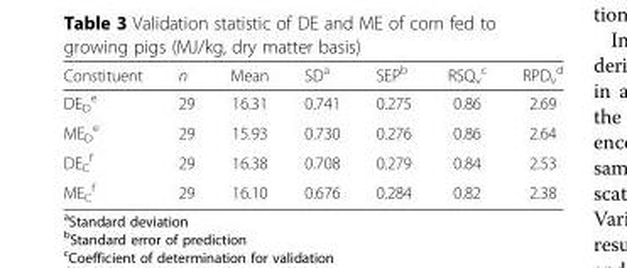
<table><thead><tr><td>Constituent</td><td>n</td><td>Mean</td><td>SD<sup>a</sup></td><td>SEP<sup>b</sup></td><td>RSQ<sub>v</sub> <sup>c</sup></td><td>RPD<sub>v</sub> <sup>d</sup></td></tr></thead><tbody><tr><td>DE<sub>D</sub> <sup>e</sup></td><td>29</td><td>16.31</td><td>0.741</td><td>0.275</td><td>0.86</td><td>2.69</td></tr><tr><td>ME<sub>D</sub> <sup>e</sup></td><td>29</td><td>15.93</td><td>0.730</td><td>0.276</td><td>0.86</td><td>2.64</td></tr><tr><td>DE<sub>C</sub> <sup>f</sup></td><td>29</td><td>16.38</td><td>0.708</td><td>0.279</td><td>0.84</td><td>2.53</td></tr><tr><td>ME<sub>C</sub> <sup>f</sup></td><td>29</td><td>16.10</td><td>0.676</td><td>0.284</td><td>0.82</td><td>2.38</td></tr></tbody></table>